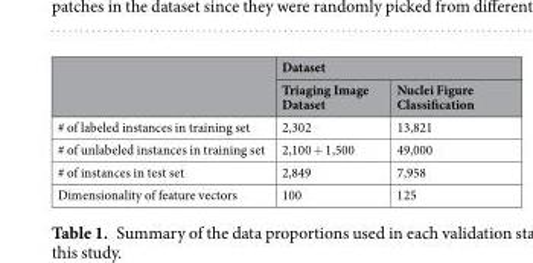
<table><thead><tr><td rowspan="2"></td><td colspan="2">Dataset</td></tr><tr><td>Triaging Image Dataset</td><td>Nuclei Figure Classification</td></tr></thead><tbody><tr><td># of labeled instances in training set</td><td>2,302</td><td>13,821</td></tr><tr><td># of unlabeled instances in training set</td><td>2,100 + 1,500</td><td>49,000</td></tr><tr><td># of instances in test set</td><td>2,849</td><td>7,958</td></tr><tr><td>Dimensionality of feature vectors</td><td>100</td><td>125</td></tr></tbody></table>